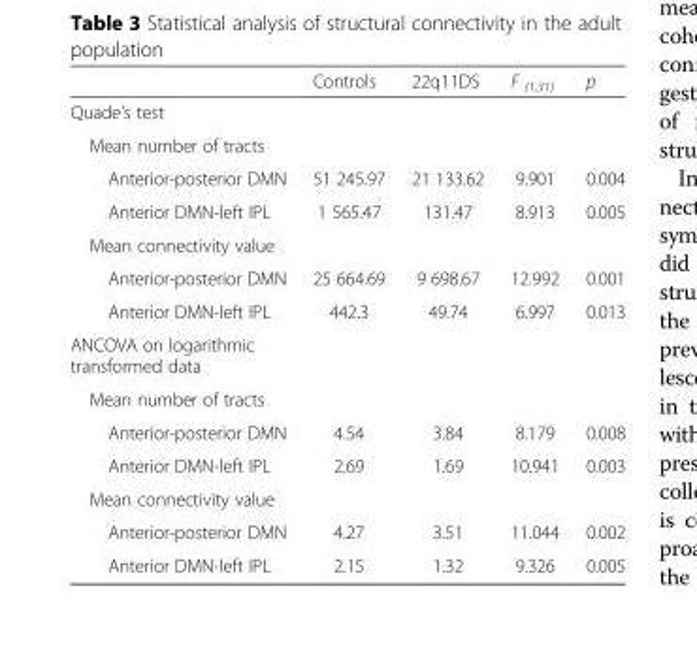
<table><thead><tr><td></td><td>Controls</td><td>22q11DS</td><td>F <sub>(1,31)</sub></td><td>p</td></tr></thead><tbody><tr><td colspan="5">Quade’s test</td></tr><tr><td colspan="5">Mean number of tracts</td></tr><tr><td>Anterior-posterior DMN</td><td>51 245.97</td><td>21 133.62</td><td>9.901</td><td>0.004</td></tr><tr><td>Anterior DMN-left IPL</td><td>1 565.47</td><td>131.47</td><td>8.913</td><td>0.005</td></tr><tr><td colspan="5">Mean connectivity value</td></tr><tr><td>Anterior-posterior DMN</td><td>25 664.69</td><td>9 698.67</td><td>12.992</td><td>0.001</td></tr><tr><td>Anterior DMN-left IPL</td><td>442.3</td><td>49.74</td><td>6.997</td><td>0.013</td></tr><tr><td colspan="5">ANCOVA on logarithmic transformed data</td></tr><tr><td colspan="5">Mean number of tracts</td></tr><tr><td>Anterior-posterior DMN</td><td>4.54</td><td>3.84</td><td>8.179</td><td>0.008</td></tr><tr><td>Anterior DMN-left IPL</td><td>2.69</td><td>1.69</td><td>10.941</td><td>0.003</td></tr><tr><td colspan="5">Mean connectivity value</td></tr><tr><td>Anterior-posterior DMN</td><td>4.27</td><td>3.51</td><td>11.044</td><td>0.002</td></tr><tr><td>Anterior DMN-left IPL</td><td>2.15</td><td>1.32</td><td>9.326</td><td>0.005</td></tr></tbody></table>